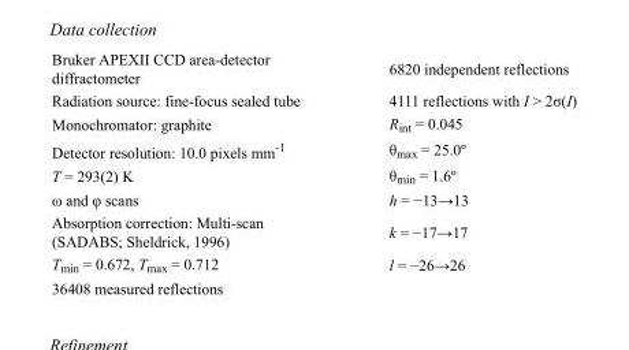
<table><tbody><tr><td>Bruker APEXII CCD area-detector diffractometer</td><td>6820 independent reflections</td></tr><tr><td>Radiation source: fine-focus sealed tube</td><td>4111 reflections with I &gt; 2σ(I)</td></tr><tr><td>Monochromator: graphite</td><td>R<sub>int</sub> = 0.045</td></tr><tr><td>Detector resolution: 10.0 pixels mm<sup>-1</sup></td><td>θ<sub>max</sub> = 25.0º</td></tr><tr><td>T = 293(2) K</td><td>θ<sub>min</sub> = 1.6º</td></tr><tr><td>ω and φ scans</td><td>h = −13→13</td></tr><tr><td>Absorption correction: Multi-scan (SADABS; Sheldrick, 1996)</td><td>k = −17→17</td></tr><tr><td>T<sub>min</sub> = 0.672, T<sub>max</sub> = 0.712</td><td>l = −26→26</td></tr><tr><td>36408 measured reflections</td><td></td></tr></tbody></table>